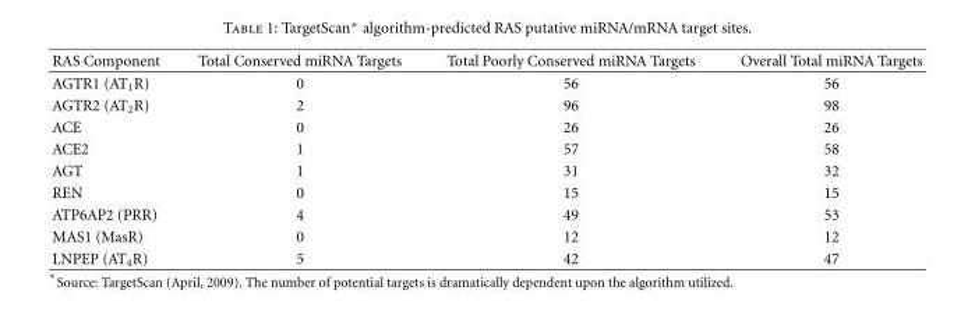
<table><thead><tr><td>RAS Component</td><td>Total Conserved miRNA Targets</td><td>Total Poorly Conserved miRNA Targets</td><td>Overall Total miRNA Targets</td></tr></thead><tbody><tr><td>AGTR1 (AT<sub>1</sub>R)</td><td>0</td><td>56</td><td>56</td></tr><tr><td>AGTR2 (AT<sub>2</sub>R)</td><td>2</td><td>96</td><td>98</td></tr><tr><td>ACE</td><td>0</td><td>26</td><td>26</td></tr><tr><td>ACE2</td><td>1</td><td>57</td><td>58</td></tr><tr><td>AGT</td><td>1</td><td>31</td><td>32</td></tr><tr><td>REN</td><td>0</td><td>15</td><td>15</td></tr><tr><td>ATP6AP2 (PRR)</td><td>4</td><td>49</td><td>53</td></tr><tr><td>MAS1 (MasR)</td><td>0</td><td>12</td><td>12</td></tr><tr><td>LNPEP (AT<sub>4</sub>R)</td><td>5</td><td>42</td><td>47</td></tr></tbody></table>